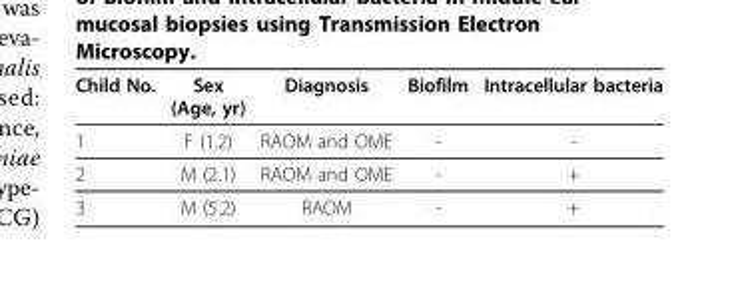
<table><thead><tr><td>Child No.</td><td>Sex (Age, yr)</td><td>Diagnosis</td><td>Biofilm</td><td>Intracellular bacteria</td></tr></thead><tbody><tr><td>1</td><td>F (1.2)</td><td>RAOM and OME</td><td>-</td><td>-</td></tr><tr><td>2</td><td>M (2.1)</td><td>RAOM and OME</td><td>-</td><td>+</td></tr><tr><td>3</td><td>M (5.2)</td><td>RAOM</td><td>-</td><td>+</td></tr></tbody></table>